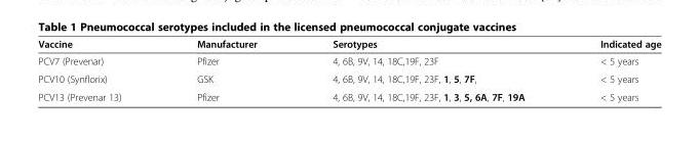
<table><thead><tr><td>Vaccine</td><td>Manufacturer</td><td>Serotypes</td><td>Indicated age</td></tr></thead><tbody><tr><td>PCV7 (Prevenar)</td><td>Pfizer</td><td>4, 6B, 9V, 14, 18C,19F, 23F</td><td>&lt; 5 years</td></tr><tr><td>PCV10 (Synflorix)</td><td>GSK</td><td>4, 6B, 9V, 14, 18C,19F, 23F, 1, 5, 7F,</td><td>&lt; 5 years</td></tr><tr><td>PCV13 (Prevenar 13)</td><td>Pfizer</td><td>4, 6B, 9V, 14, 18C,19F, 23F, 1, 3, 5, 6A, 7F, 19A</td><td>&lt; 5 years</td></tr></tbody></table>